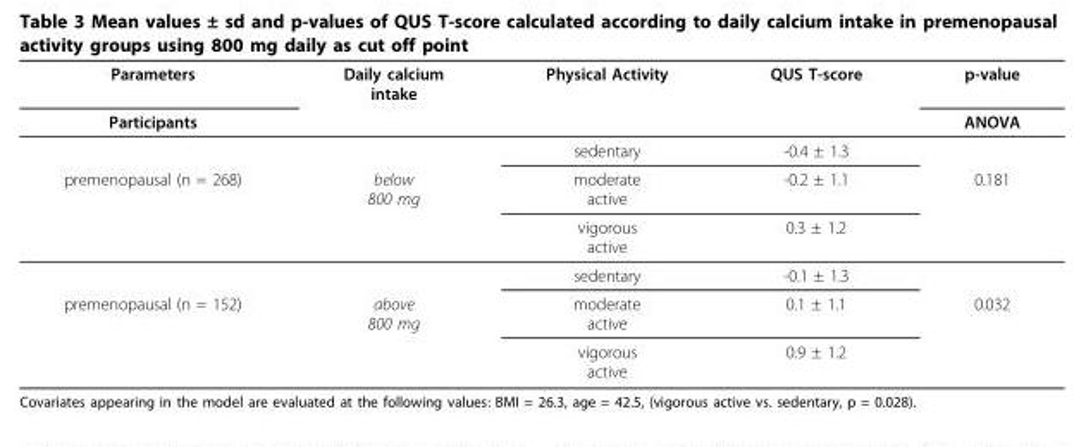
<table><thead><tr><td rowspan="2">Parameters Participants</td><td rowspan="2">Daily calcium intake</td><td rowspan="2">Physical Activity</td><td rowspan="2">QUS T-score</td><td rowspan="2">p-value ANOVA</td></tr><tr></tr></thead><tbody><tr><td></td><td></td><td>sedentary</td><td>-0.4 ± 1.3</td><td></td></tr><tr><td rowspan="3">premenopausal (n = 268)</td><td>below 800 mg</td><td>moderate active</td><td>-0.2 ± 1.1</td><td>0.181</td></tr><tr><td></td><td>vigorous active</td><td>0.3 ± 1.2</td><td></td></tr><tr><td></td><td>sedentary</td><td>-0.1 ± 1.3</td><td></td></tr><tr><td rowspan="2">premenopausal (n = 152)</td><td>above 800 mg</td><td>moderate active</td><td>0.1 ± 1.1</td><td>0.032</td></tr><tr><td></td><td>vigorous active</td><td>0.9 ± 1.2</td><td></td></tr></tbody></table>